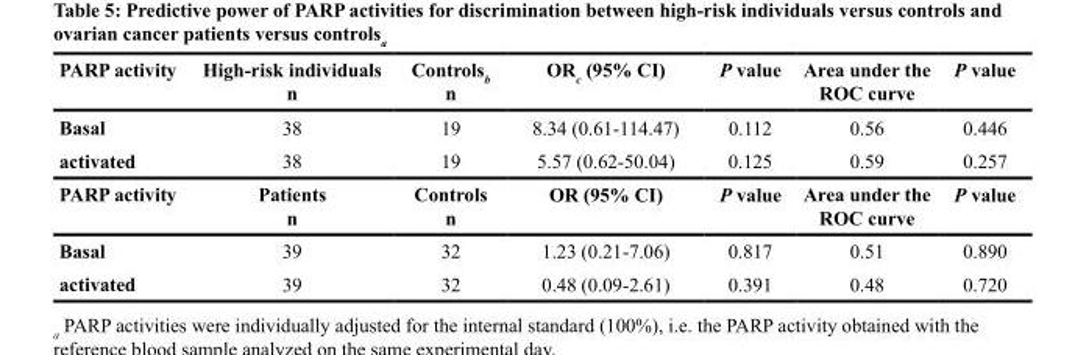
<table><thead><tr><td>PARP activity</td><td>High-risk individuals n</td><td>Controls<sub>b</sub> n</td><td>OR<sub>c</sub> (95% CI)</td><td>P value</td><td>Area under the ROC curve</td><td>P value</td></tr></thead><tbody><tr><td>Basal</td><td>38</td><td>19</td><td>8.34 (0.61-114.47)</td><td>0.112</td><td>0.56</td><td>0.446</td></tr><tr><td>activated</td><td>38</td><td>19</td><td>5.57 (0.62-50.04)</td><td>0.125</td><td>0.59</td><td>0.257</td></tr><tr><td>PARP activity</td><td>Patients n</td><td>Controls n</td><td>OR (95% CI)</td><td>P value</td><td>Area under the ROC curve</td><td>P value</td></tr><tr><td>Basal</td><td>39</td><td>32</td><td>1.23 (0.21-7.06)</td><td>0.817</td><td>0.51</td><td>0.890</td></tr><tr><td>activated</td><td>39</td><td>32</td><td>0.48 (0.09-2.61)</td><td>0.391</td><td>0.48</td><td>0.720</td></tr></tbody></table>